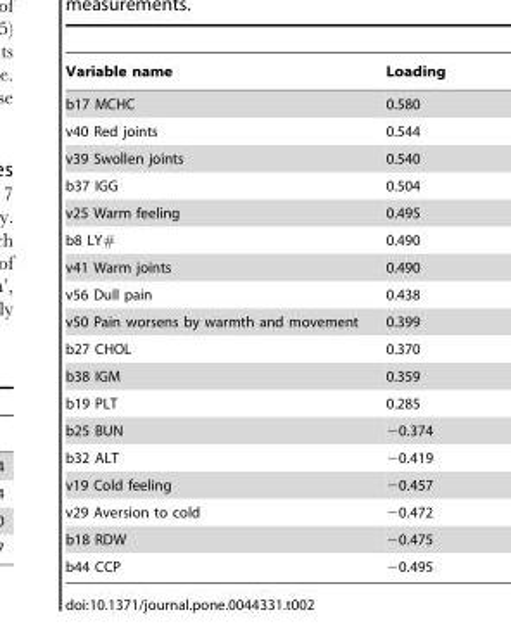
<table><thead><tr><td>Variable name</td><td>Loading</td></tr></thead><tbody><tr><td>b17 MCHC</td><td>0.580</td></tr><tr><td>v40 Red joints</td><td>0.544</td></tr><tr><td>v39 Swollen joints</td><td>0.540</td></tr><tr><td>b37 IGG</td><td>0.504</td></tr><tr><td>v25 Warm feeling</td><td>0.495</td></tr><tr><td>b8 LY#</td><td>0.490</td></tr><tr><td>v41 Warm joints</td><td>0.490</td></tr><tr><td>v56 Dull pain</td><td>0.438</td></tr><tr><td>v50 Pain worsens by warmth and movement</td><td>0.399</td></tr><tr><td>b27 CHOL</td><td>0.370</td></tr><tr><td>b38 IGM</td><td>0.359</td></tr><tr><td>b19 PLT</td><td>0.285</td></tr><tr><td>b25 BUN</td><td>−0.374</td></tr><tr><td>b32 ALT</td><td>−0.419</td></tr><tr><td>v19 Cold feeling</td><td>−0.457</td></tr><tr><td>v29 Aversion to cold</td><td>−0.472</td></tr><tr><td>b18 RDW</td><td>−0.475</td></tr><tr><td>b44 CCP</td><td>−0.495</td></tr></tbody></table>